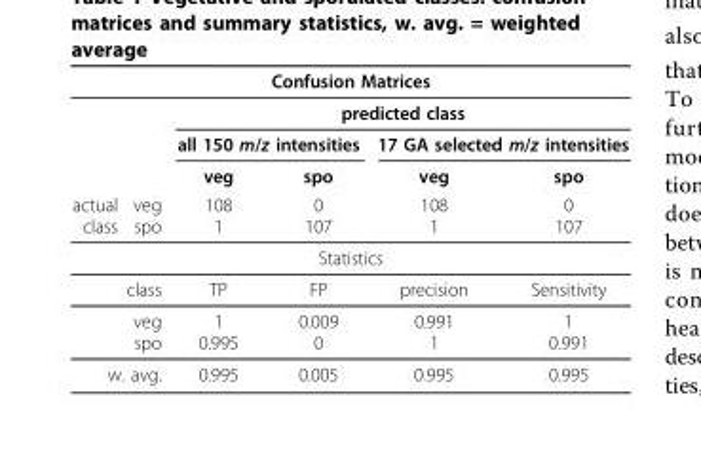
<table><thead><tr><td colspan="6">Confusion Matrices</td></tr><tr><td rowspan="3"></td><td rowspan="3"></td><td colspan="4">predicted class</td></tr><tr><td colspan="2">all 150 m/z intensities</td><td colspan="2">17 GA selected m/z intensities</td></tr><tr><td>veg</td><td>spo</td><td>veg</td><td>spo</td></tr></thead><tbody><tr><td>actual class</td><td>veg spo</td><td>108 1</td><td>0 107</td><td>108 1</td><td>0 107</td></tr><tr><td colspan="6">Statistics</td></tr><tr><td colspan="2">class</td><td>TP</td><td>FP</td><td>precision</td><td>Sensitivity</td></tr><tr><td colspan="2">veg spo</td><td>1 0.995</td><td>0.009 0</td><td>0.991 1</td><td>1 0.991</td></tr><tr><td colspan="2">w. avg.</td><td>0.995</td><td>0.005</td><td>0.995</td><td>0.995</td></tr></tbody></table>